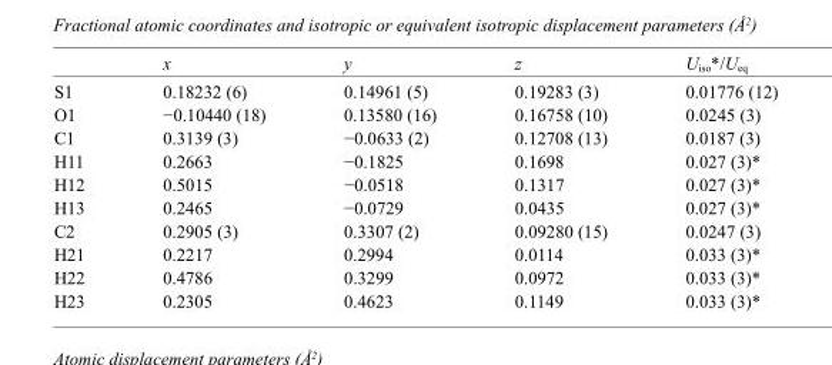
<table><thead><tr><td></td><td>x</td><td>y</td><td>z</td><td>U<sub>iso</sub>*/U<sub>eq</sub></td></tr></thead><tbody><tr><td>S1</td><td>0.18232 (6)</td><td>0.14961 (5)</td><td>0.19283 (3)</td><td>0.01776 (12)</td></tr><tr><td>O1</td><td>−0.10440 (18)</td><td>0.13580 (16)</td><td>0.16758 (10)</td><td>0.0245 (3)</td></tr><tr><td>C1</td><td>0.3139 (3)</td><td>−0.0633 (2)</td><td>0.12708 (13)</td><td>0.0187 (3)</td></tr><tr><td>H11</td><td>0.2663</td><td>−0.1825</td><td>0.1698</td><td>0.027 (3)*</td></tr><tr><td>H12</td><td>0.5015</td><td>−0.0518</td><td>0.1317</td><td>0.027 (3)*</td></tr><tr><td>H13</td><td>0.2465</td><td>−0.0729</td><td>0.0435</td><td>0.027 (3)*</td></tr><tr><td>C2</td><td>0.2905 (3)</td><td>0.3307 (2)</td><td>0.09280 (15)</td><td>0.0247 (3)</td></tr><tr><td>H21</td><td>0.2217</td><td>0.2994</td><td>0.0114</td><td>0.033 (3)*</td></tr><tr><td>H22</td><td>0.4786</td><td>0.3299</td><td>0.0972</td><td>0.033 (3)*</td></tr><tr><td>H23</td><td>0.2305</td><td>0.4623</td><td>0.1149</td><td>0.033 (3)*</td></tr></tbody></table>